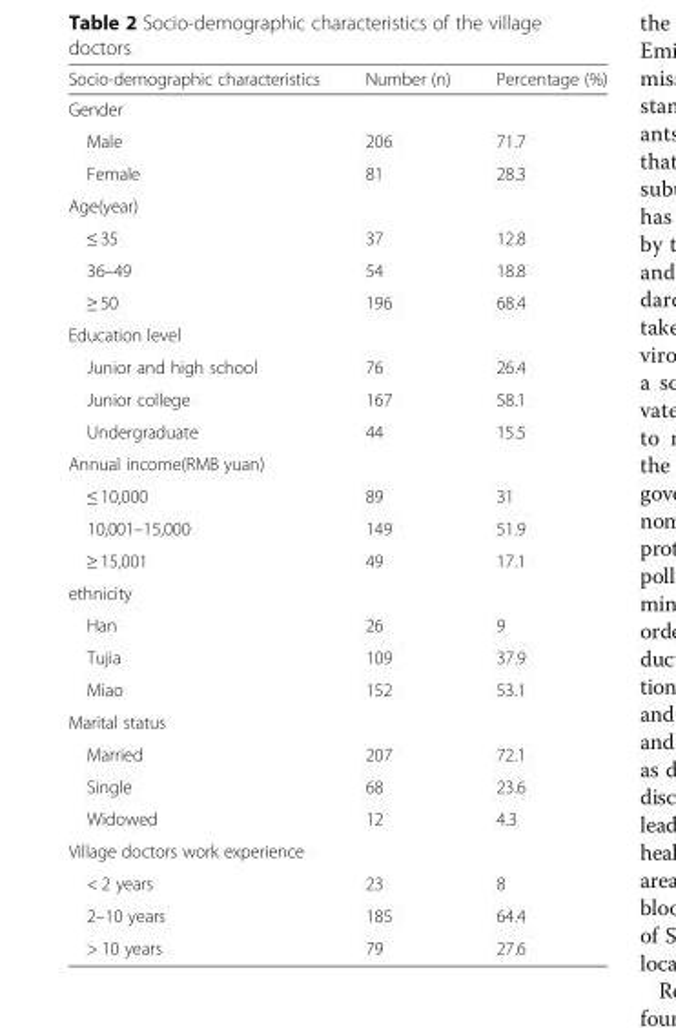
<table><thead><tr><td>Socio-demographic characteristics</td><td>Number (n)</td><td>Percentage (%)</td></tr></thead><tbody><tr><td colspan="3">Gender</td></tr><tr><td>Male</td><td>206</td><td>71.7</td></tr><tr><td>Female</td><td>81</td><td>28.3</td></tr><tr><td colspan="3">Age(year)</td></tr><tr><td>≤ 35</td><td>37</td><td>12.8</td></tr><tr><td>36–49</td><td>54</td><td>18.8</td></tr><tr><td>≥ 50</td><td>196</td><td>68.4</td></tr><tr><td colspan="3">Education level</td></tr><tr><td>Junior and high school</td><td>76</td><td>26.4</td></tr><tr><td>Junior college</td><td>167</td><td>58.1</td></tr><tr><td>Undergraduate</td><td>44</td><td>15.5</td></tr><tr><td colspan="3">Annual income(RMB yuan)</td></tr><tr><td>≤ 10,000</td><td>89</td><td>31</td></tr><tr><td>10,001–15,000</td><td>149</td><td>51.9</td></tr><tr><td>≥ 15,001</td><td>49</td><td>17.1</td></tr><tr><td colspan="3">ethnicity</td></tr><tr><td>Han</td><td>26</td><td>9</td></tr><tr><td>Tujia</td><td>109</td><td>37.9</td></tr><tr><td>Miao</td><td>152</td><td>53.1</td></tr><tr><td colspan="3">Marital status</td></tr><tr><td>Married</td><td>207</td><td>72.1</td></tr><tr><td>Single</td><td>68</td><td>23.6</td></tr><tr><td>Widowed</td><td>12</td><td>4.3</td></tr><tr><td colspan="3">Village doctors work experience</td></tr><tr><td>&lt; 2 years</td><td>23</td><td>8</td></tr><tr><td>2–10 years</td><td>185</td><td>64.4</td></tr><tr><td>&gt; 10 years</td><td>79</td><td>27.6</td></tr></tbody></table>